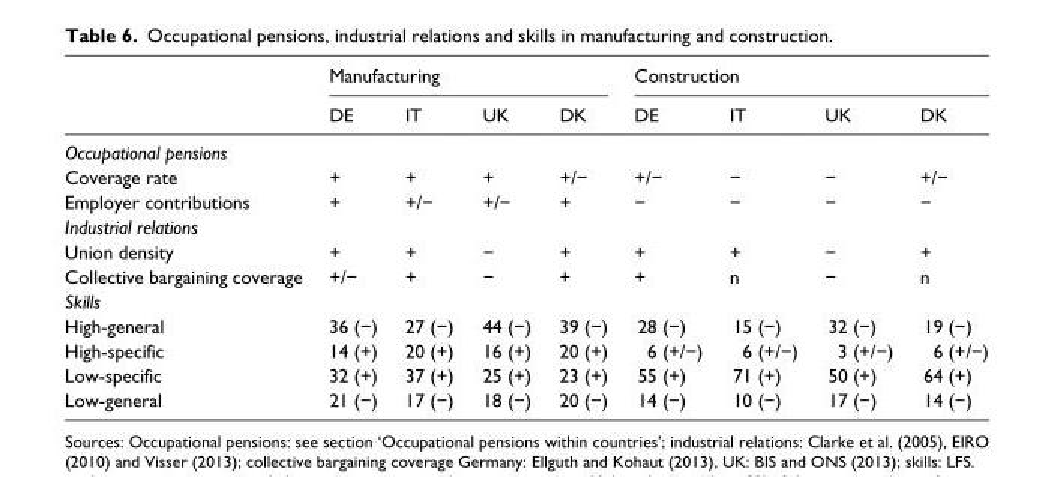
<table><thead><tr><td rowspan="2"></td><td colspan="4">Manufacturing</td><td colspan="4">Construction</td></tr><tr><td>DE</td><td>IT</td><td>UK</td><td>DK</td><td>DE</td><td>IT</td><td>UK</td><td>DK</td></tr></thead><tbody><tr><td colspan="9">Occupational pensions</td></tr><tr><td>Coverage rate</td><td>+</td><td>+</td><td>+</td><td>+/−</td><td>+/−</td><td>−</td><td>−</td><td>+/−</td></tr><tr><td>Employer contributions</td><td>+</td><td>+/−</td><td>+/−</td><td>+</td><td>−</td><td>−</td><td>−</td><td>−</td></tr><tr><td colspan="9">Industrial relations</td></tr><tr><td>Union density</td><td>+</td><td>+</td><td>−</td><td>+</td><td>+</td><td>+</td><td>−</td><td>+</td></tr><tr><td>Collective bargaining coverage</td><td>+/−</td><td>+</td><td>−</td><td>+</td><td>+</td><td>n</td><td>−</td><td>n</td></tr><tr><td colspan="9">Skills</td></tr><tr><td>High-general</td><td>36 (−)</td><td>27 (−)</td><td>44 (−)</td><td>39 (−)</td><td>28 (−)</td><td>15 (−)</td><td>32 (−)</td><td>19 (−)</td></tr><tr><td>High-specific</td><td>14 (+)</td><td>20 (+)</td><td>16 (+)</td><td>20 (+)</td><td>6 (+/−)</td><td>6 (+/−)</td><td>3 (+/−)</td><td>6 (+/−)</td></tr><tr><td>Low-specific</td><td>32 (+)</td><td>37 (+)</td><td>25 (+)</td><td>23 (+)</td><td>55 (+)</td><td>71 (+)</td><td>50 (+)</td><td>64 (+)</td></tr><tr><td>Low-general</td><td>21 (−)</td><td>17 (−)</td><td>18 (−)</td><td>20 (−)</td><td>14 (−)</td><td>10 (−)</td><td>17 (−)</td><td>14 (−)</td></tr></tbody></table>